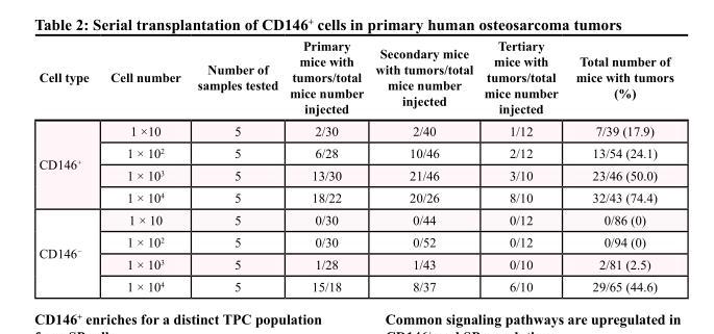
<table><thead><tr><td>Cell type</td><td>Cell number</td><td>Number of samples tested</td><td>Primary mice with tumors/total mice number injected</td><td>Secondary mice with tumors/total mice number injected</td><td>Tertiary mice with tumors/total mice number injected</td><td>Total number of mice with tumors (%)</td></tr></thead><tbody><tr><td rowspan="4">CD146<sup>+</sup></td><td>1 ×10</td><td>5</td><td>2/30</td><td>2/40</td><td>1/12</td><td>7/39 (17.9)</td></tr><tr><td>1 × 10<sup>2</sup></td><td>5</td><td>6/28</td><td>10/46</td><td>2/12</td><td>13/54 (24.1)</td></tr><tr><td>1 × 10<sup>3</sup></td><td>5</td><td>13/30</td><td>21/46</td><td>3/10</td><td>23/46 (50.0)</td></tr><tr><td>1 × 10<sup>4</sup></td><td>5</td><td>18/22</td><td>20/26</td><td>8/10</td><td>32/43 (74.4)</td></tr><tr><td rowspan="4">CD146<sup>−</sup></td><td>1 × 10</td><td>5</td><td>0/30</td><td>0/44</td><td>0/12</td><td>0/86 (0)</td></tr><tr><td>1 × 10<sup>2</sup></td><td>5</td><td>0/30</td><td>0/52</td><td>0/12</td><td>0/94 (0)</td></tr><tr><td>1 × 10<sup>3</sup></td><td>5</td><td>1/28</td><td>1/43</td><td>0/10</td><td>2/81 (2.5)</td></tr><tr><td>1 × 10<sup>4</sup></td><td>5</td><td>15/18</td><td>8/37</td><td>6/10</td><td>29/65 (44.6)</td></tr></tbody></table>